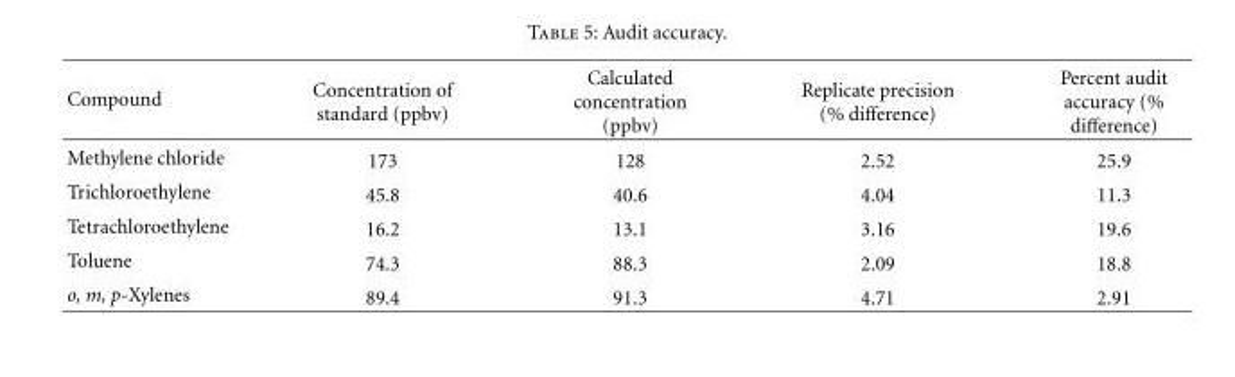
<table><thead><tr><td>Compound</td><td>Concentration of standard (ppbv)</td><td>Calculated concentration (ppbv)</td><td>Replicate precision (% difference)</td><td>Percent audit accuracy (% difference)</td></tr></thead><tbody><tr><td>Methylene chloride</td><td>173</td><td>128</td><td>2.52</td><td>25.9</td></tr><tr><td>Trichloroethylene</td><td>45.8</td><td>40.6</td><td>4.04</td><td>11.3</td></tr><tr><td>Tetrachloroethylene</td><td>16.2</td><td>13.1</td><td>3.16</td><td>19.6</td></tr><tr><td>Toluene</td><td>74.3</td><td>88.3</td><td>2.09</td><td>18.8</td></tr><tr><td>o, m, p-Xylenes</td><td>89.4</td><td>91.3</td><td>4.71</td><td>2.91</td></tr></tbody></table>